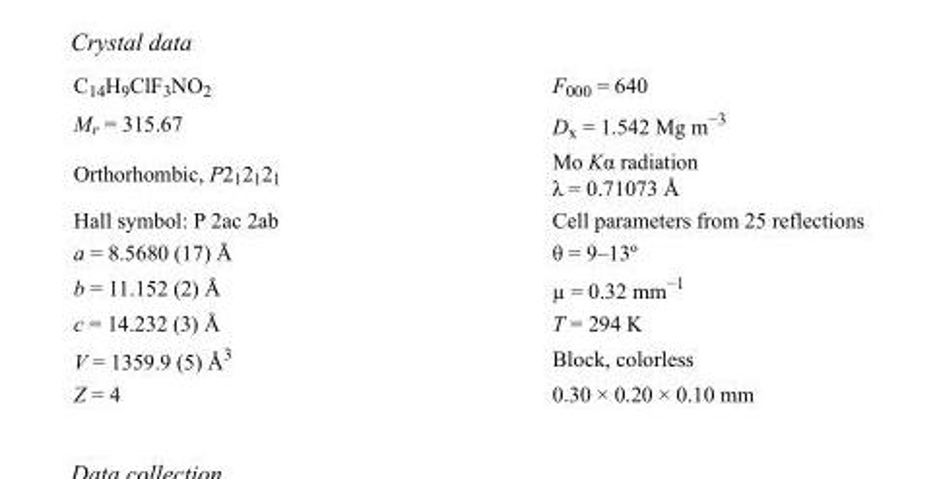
<table><tbody><tr><td>C<sub>14</sub>H<sub>9</sub>ClF<sub>3</sub>NO<sub>2</sub></td><td>F000 = 640</td></tr><tr><td>M<sub>r</sub> = 315.67</td><td>D<sub>x</sub> = 1.542 Mg m<sup>−3</sup></td></tr><tr><td>Orthorhombic, P2<sub>1</sub>2<sub>1</sub>2<sub>1</sub></td><td>Mo Kα radiation λ = 0.71073 Å</td></tr><tr><td>Hall symbol: P 2ac 2ab</td><td>Cell parameters from 25 reflections</td></tr><tr><td>a = 8.5680 (17) Å</td><td>θ = 9–13º</td></tr><tr><td>b = 11.152 (2) Å</td><td>µ = 0.32 mm<sup>−1</sup></td></tr><tr><td>c = 14.232 (3) Å</td><td>T = 294 K</td></tr><tr><td>V = 1359.9 (5) Å<sup>3</sup></td><td>Block, colorless</td></tr><tr><td>Z = 4</td><td>0.30 × 0.20 × 0.10 mm</td></tr></tbody></table>